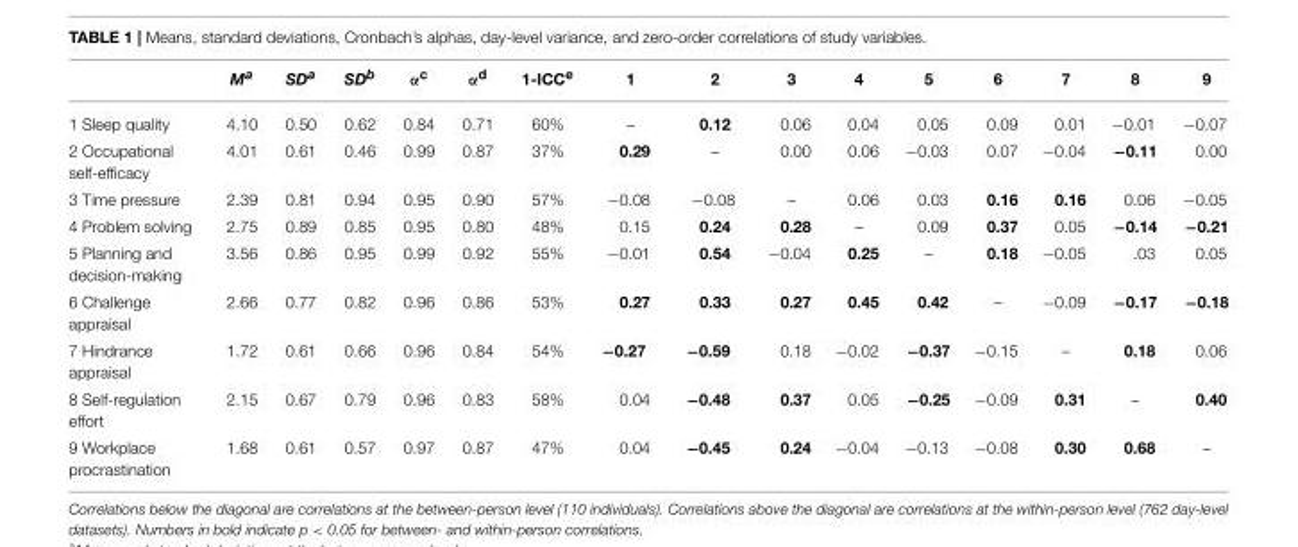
<table><thead><tr><td></td><td>M<sup>a</sup></td><td>SD<sup>a</sup></td><td>SD<sup>b</sup></td><td>α<sup>c</sup></td><td>α<sup>d</sup></td><td>1-ICC<sup>e</sup></td><td>1</td><td>2</td><td>3</td><td>4</td><td>5</td><td>6</td><td>7</td><td>8</td><td>9</td></tr></thead><tbody><tr><td>1 Sleep quality</td><td>4.10</td><td>0.50</td><td>0.62</td><td>0.84</td><td>0.71</td><td>60%</td><td>–</td><td>0.12</td><td>0.06</td><td>0.04</td><td>0.05</td><td>0.09</td><td>0.01</td><td>−0.01</td><td>−0.07</td></tr><tr><td>2 Occupational self-efficacy</td><td>4.01</td><td>0.61</td><td>0.46</td><td>0.99</td><td>0.87</td><td>37%</td><td>0.29</td><td>–</td><td>0.00</td><td>0.06</td><td>−0.03</td><td>0.07</td><td>−0.04</td><td>−0.11</td><td>0.00</td></tr><tr><td>3 Time pressure</td><td>2.39</td><td>0.81</td><td>0.94</td><td>0.95</td><td>0.90</td><td>57%</td><td>−0.08</td><td>−0.08</td><td>–</td><td>0.06</td><td>0.03</td><td>0.16</td><td>0.16</td><td>0.06</td><td>−0.05</td></tr><tr><td>4 Problem solving</td><td>2.75</td><td>0.89</td><td>0.85</td><td>0.95</td><td>0.80</td><td>48%</td><td>0.15</td><td>0.24</td><td>0.28</td><td>–</td><td>0.09</td><td>0.37</td><td>0.05</td><td>−0.14</td><td>−0.21</td></tr><tr><td>5 Planning and decision-making</td><td>3.56</td><td>0.86</td><td>0.95</td><td>0.99</td><td>0.92</td><td>55%</td><td>−0.01</td><td>0.54</td><td>−0.04</td><td>0.25</td><td>–</td><td>0.18</td><td>−0.05</td><td>.03</td><td>0.05</td></tr><tr><td>6 Challenge appraisal</td><td>2.66</td><td>0.77</td><td>0.82</td><td>0.96</td><td>0.86</td><td>53%</td><td>0.27</td><td>0.33</td><td>0.27</td><td>0.45</td><td>0.42</td><td>–</td><td>−0.09</td><td>−0.17</td><td>−0.18</td></tr><tr><td>7 Hindrance appraisal</td><td>1.72</td><td>0.61</td><td>0.66</td><td>0.96</td><td>0.84</td><td>54%</td><td>−0.27</td><td>−0.59</td><td>0.18</td><td>−0.02</td><td>−0.37</td><td>−0.15</td><td>–</td><td>0.18</td><td>0.06</td></tr><tr><td>8 Self-regulation effort</td><td>2.15</td><td>0.67</td><td>0.79</td><td>0.96</td><td>0.83</td><td>58%</td><td>0.04</td><td>−0.48</td><td>0.37</td><td>0.05</td><td>−0.25</td><td>−0.09</td><td>0.31</td><td>–</td><td>0.40</td></tr><tr><td>9 Workplace procrastination</td><td>1.68</td><td>0.61</td><td>0.57</td><td>0.97</td><td>0.87</td><td>47%</td><td>0.04</td><td>−0.45</td><td>0.24</td><td>−0.04</td><td>−0.13</td><td>−0.08</td><td>0.30</td><td>0.68</td><td>–</td></tr></tbody></table>